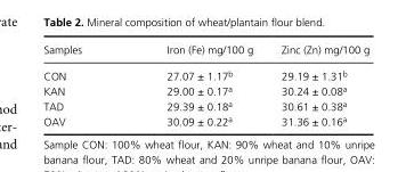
<table><thead><tr><td>Samples</td><td>Iron (Fe) mg/100 g</td><td>Zinc (Zn) mg/100 g</td></tr></thead><tbody><tr><td>CON</td><td>27.07 ± 1.17<sup>b</sup></td><td>29.19 ± 1.31<sup>b</sup></td></tr><tr><td>KAN</td><td>29.00 ± 0.17<sup>a</sup></td><td>30.24 ± 0.08<sup>a</sup></td></tr><tr><td>TAD</td><td>29.39 ± 0.18<sup>a</sup></td><td>30.61 ± 0.38<sup>a</sup></td></tr><tr><td>OAV</td><td>30.09 ± 0.22<sup>a</sup></td><td>31.36 ± 0.16<sup>a</sup></td></tr></tbody></table>